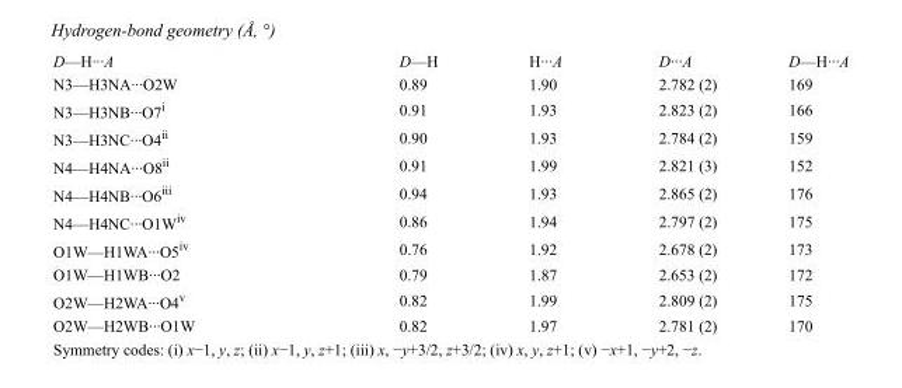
<table><tbody><tr><td>D—H···A</td><td>D—H</td><td>H···A</td><td>D···A</td><td>D—H···A</td></tr><tr><td>N3—H3NA···O2W</td><td>0.89</td><td>1.90</td><td>2.782 (2)</td><td>169</td></tr><tr><td>N3—H3NB···O7<sup>i</sup></td><td>0.91</td><td>1.93</td><td>2.823 (2)</td><td>166</td></tr><tr><td>N3—H3NC···O4<sup>ii</sup></td><td>0.90</td><td>1.93</td><td>2.784 (2)</td><td>159</td></tr><tr><td>N4—H4NA···O8<sup>ii</sup></td><td>0.91</td><td>1.99</td><td>2.821 (3)</td><td>152</td></tr><tr><td>N4—H4NB···O6<sup>iii</sup></td><td>0.94</td><td>1.93</td><td>2.865 (2)</td><td>176</td></tr><tr><td>N4—H4NC···O1W<sup>iv</sup></td><td>0.86</td><td>1.94</td><td>2.797 (2)</td><td>175</td></tr><tr><td>O1W—H1WA···O5<sup>iv</sup></td><td>0.76</td><td>1.92</td><td>2.678 (2)</td><td>173</td></tr><tr><td>O1W—H1WB···O2</td><td>0.79</td><td>1.87</td><td>2.653 (2)</td><td>172</td></tr><tr><td>O2W—H2WA···O4<sup>v</sup></td><td>0.82</td><td>1.99</td><td>2.809 (2)</td><td>175</td></tr><tr><td>O2W—H2WB···O1W</td><td>0.82</td><td>1.97</td><td>2.781 (2)</td><td>170</td></tr></tbody></table>